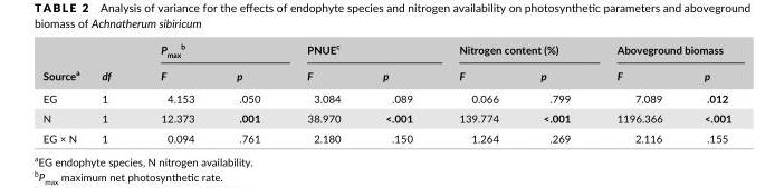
<table><thead><tr><td rowspan="2">Source<sup>a</sup></td><td rowspan="2">df</td><td colspan="2">P<sub>max</sub> b</td><td colspan="2">PNUE<sup>c</sup></td><td colspan="2">Nitrogen content (%)</td><td colspan="2">Aboveground biomass</td></tr><tr><td>F</td><td>p</td><td>F</td><td>p</td><td>F</td><td>p</td><td>F</td><td>p</td></tr></thead><tbody><tr><td>EG</td><td>1</td><td>4.153</td><td>.050</td><td>3.084</td><td>.089</td><td>0.066</td><td>.799</td><td>7.089</td><td>.012</td></tr><tr><td>N</td><td>1</td><td>12.373</td><td>.001</td><td>38.970</td><td>&lt;.001</td><td>139.774</td><td>&lt;.001</td><td>1196.366</td><td>&lt;.001</td></tr><tr><td>EG × N</td><td>1</td><td>0.094</td><td>.761</td><td>2.180</td><td>.150</td><td>1.264</td><td>.269</td><td>2.116</td><td>.155</td></tr></tbody></table>